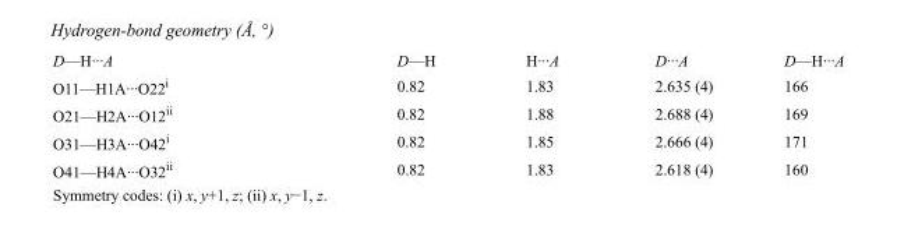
<table><tbody><tr><td>D—H···A</td><td>D—H</td><td>H···A</td><td>D···A</td><td>D—H···A</td></tr><tr><td>O11—H1A···O22<sup>i</sup></td><td>0.82</td><td>1.83</td><td>2.635 (4)</td><td>166</td></tr><tr><td>O21—H2A···O12<sup>ii</sup></td><td>0.82</td><td>1.88</td><td>2.688 (4)</td><td>169</td></tr><tr><td>O31—H3A···O42<sup>i</sup></td><td>0.82</td><td>1.85</td><td>2.666 (4)</td><td>171</td></tr><tr><td>O41—H4A···O32<sup>ii</sup></td><td>0.82</td><td>1.83</td><td>2.618 (4)</td><td>160</td></tr></tbody></table>